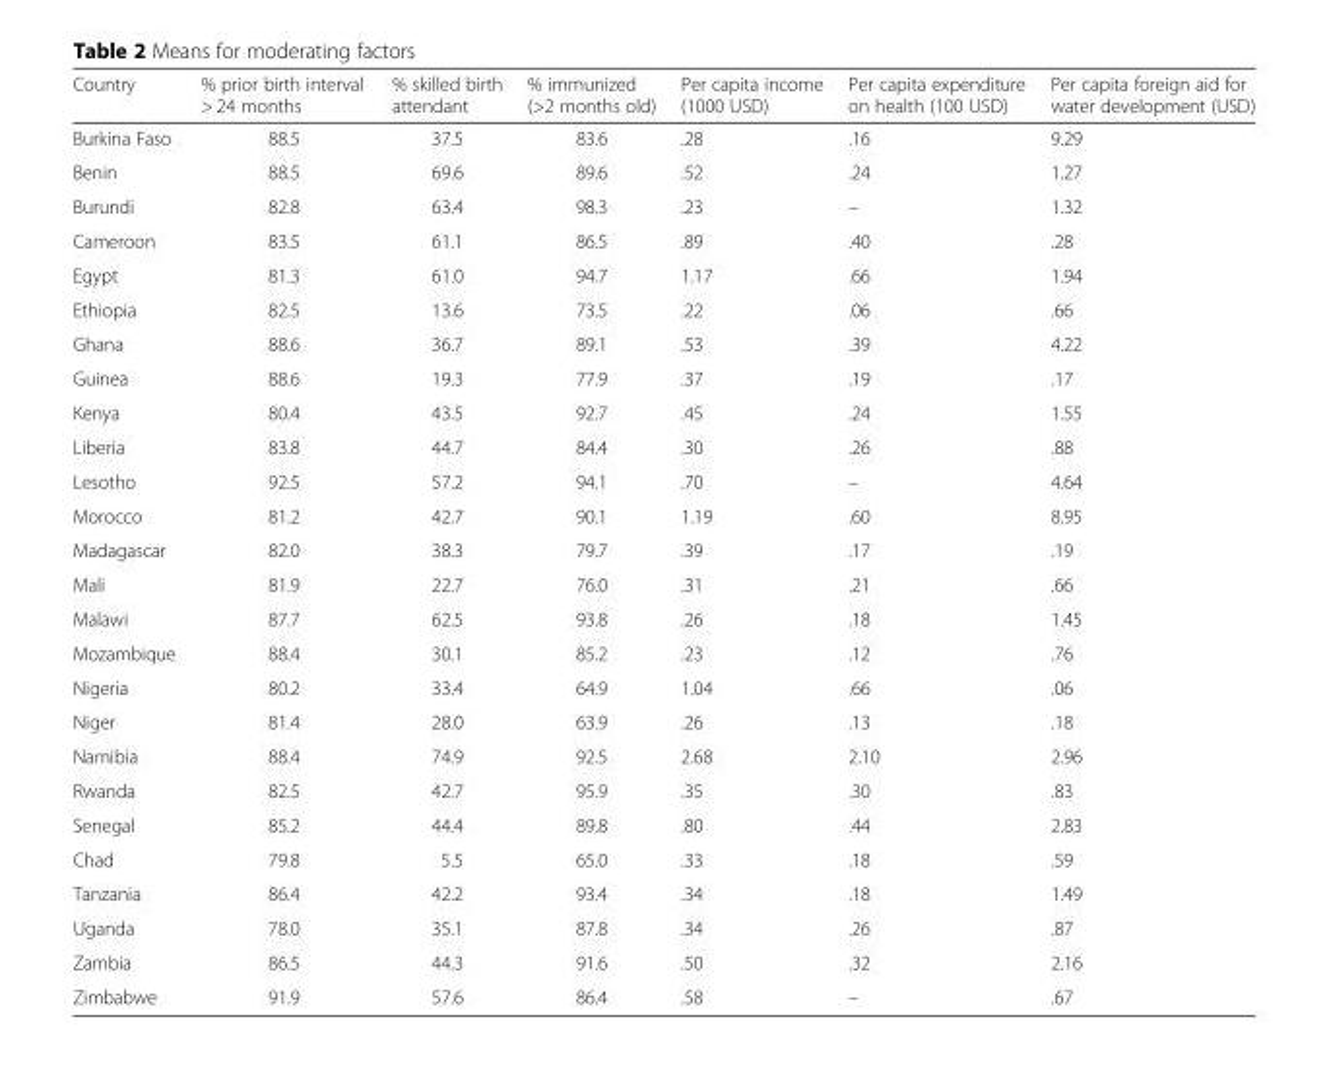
<table><thead><tr><td>Country</td><td>% prior birth interval &gt; 24 months</td><td>% skilled birth attendant</td><td>% immunized (&gt;2 months old)</td><td>Per capita income (1000 USD)</td><td>Per capita expenditure on health (100 USD)</td><td>Per capita foreign aid for water development (USD)</td></tr></thead><tbody><tr><td>Burkina Faso</td><td>88.5</td><td>37.5</td><td>83.6</td><td>.28</td><td>.16</td><td>9.29</td></tr><tr><td>Benin</td><td>88.5</td><td>69.6</td><td>89.6</td><td>.52</td><td>.24</td><td>1.27</td></tr><tr><td>Burundi</td><td>82.8</td><td>63.4</td><td>98.3</td><td>.23</td><td>–</td><td>1.32</td></tr><tr><td>Cameroon</td><td>83.5</td><td>61.1</td><td>86.5</td><td>.89</td><td>.40</td><td>.28</td></tr><tr><td>Egypt</td><td>81.3</td><td>61.0</td><td>94.7</td><td>1.17</td><td>.66</td><td>1.94</td></tr><tr><td>Ethiopia</td><td>82.5</td><td>13.6</td><td>73.5</td><td>.22</td><td>.06</td><td>.66</td></tr><tr><td>Ghana</td><td>88.6</td><td>36.7</td><td>89.1</td><td>.53</td><td>.39</td><td>4.22</td></tr><tr><td>Guinea</td><td>88.6</td><td>19.3</td><td>77.9</td><td>.37</td><td>.19</td><td>.17</td></tr><tr><td>Kenya</td><td>80.4</td><td>43.5</td><td>92.7</td><td>.45</td><td>.24</td><td>1.55</td></tr><tr><td>Liberia</td><td>83.8</td><td>44.7</td><td>84.4</td><td>.30</td><td>.26</td><td>.88</td></tr><tr><td>Lesotho</td><td>92.5</td><td>57.2</td><td>94.1</td><td>.70</td><td>–</td><td>4.64</td></tr><tr><td>Morocco</td><td>81.2</td><td>42.7</td><td>90.1</td><td>1.19</td><td>.60</td><td>8.95</td></tr><tr><td>Madagascar</td><td>82.0</td><td>38.3</td><td>79.7</td><td>.39</td><td>.17</td><td>.19</td></tr><tr><td>Mali</td><td>81.9</td><td>22.7</td><td>76.0</td><td>.31</td><td>.21</td><td>.66</td></tr><tr><td>Malawi</td><td>87.7</td><td>62.5</td><td>93.8</td><td>.26</td><td>.18</td><td>1.45</td></tr><tr><td>Mozambique</td><td>88.4</td><td>30.1</td><td>85.2</td><td>.23</td><td>.12</td><td>.76</td></tr><tr><td>Nigeria</td><td>80.2</td><td>33.4</td><td>64.9</td><td>1.04</td><td>.66</td><td>.06</td></tr><tr><td>Niger</td><td>81.4</td><td>28.0</td><td>63.9</td><td>.26</td><td>.13</td><td>.18</td></tr><tr><td>Namibia</td><td>88.4</td><td>74.9</td><td>92.5</td><td>2.68</td><td>2.10</td><td>2.96</td></tr><tr><td>Rwanda</td><td>82.5</td><td>42.7</td><td>95.9</td><td>.35</td><td>.30</td><td>.83</td></tr><tr><td>Senegal</td><td>85.2</td><td>44.4</td><td>89.8</td><td>.80</td><td>.44</td><td>2.83</td></tr><tr><td>Chad</td><td>79.8</td><td>5.5</td><td>65.0</td><td>.33</td><td>.18</td><td>.59</td></tr><tr><td>Tanzania</td><td>86.4</td><td>42.2</td><td>93.4</td><td>.34</td><td>.18</td><td>1.49</td></tr><tr><td>Uganda</td><td>78.0</td><td>35.1</td><td>87.8</td><td>.34</td><td>.26</td><td>.87</td></tr><tr><td>Zambia</td><td>86.5</td><td>44.3</td><td>91.6</td><td>.50</td><td>.32</td><td>2.16</td></tr><tr><td>Zimbabwe</td><td>91.9</td><td>57.6</td><td>86.4</td><td>.58</td><td>–</td><td>.67</td></tr></tbody></table>